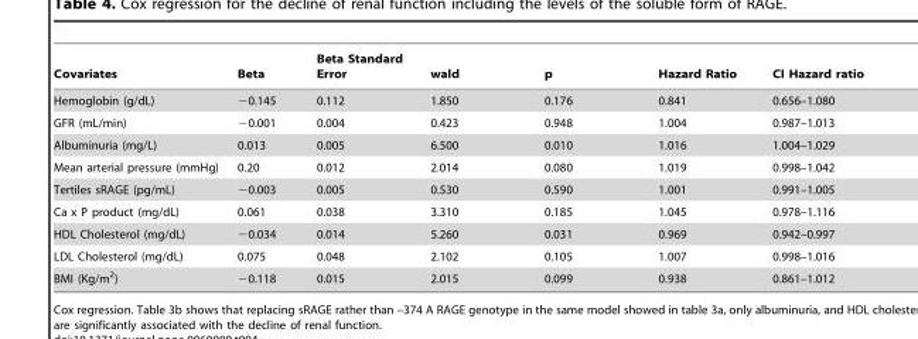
<table><thead><tr><td>Covariates</td><td>Beta</td><td>Beta Standard Error</td><td>wald</td><td>p</td><td>Hazard Ratio</td><td>CI Hazard ratio</td></tr></thead><tbody><tr><td>Hemoglobin (g/dL)</td><td>−0.145</td><td>0.112</td><td>1.850</td><td>0.176</td><td>0.841</td><td>0.656–1.080</td></tr><tr><td>GFR (mL/min)</td><td>−0.001</td><td>0.004</td><td>0.423</td><td>0.948</td><td>1.004</td><td>0.987–1.013</td></tr><tr><td>Albuminuria (mg/L)</td><td>0.013</td><td>0.005</td><td>6.500</td><td>0.010</td><td>1.016</td><td>1.004–1.029</td></tr><tr><td>Mean arterial pressure (mmHg)</td><td>0.20</td><td>0.012</td><td>2.014</td><td>0.080</td><td>1.019</td><td>0.998–1.042</td></tr><tr><td>Tertiles sRAGE (pg/mL)</td><td>−0.003</td><td>0.005</td><td>0.530</td><td>0.590</td><td>1.001</td><td>0.991–1.005</td></tr><tr><td>Ca x P product (mg/dL)</td><td>0.061</td><td>0.038</td><td>3.310</td><td>0.185</td><td>1.045</td><td>0.978–1.116</td></tr><tr><td>HDL Cholesterol (mg/dL)</td><td>−0.034</td><td>0.014</td><td>5.260</td><td>0.031</td><td>0.969</td><td>0.942–0.997</td></tr><tr><td>LDL Cholesterol (mg/dL)</td><td>0.075</td><td>0.048</td><td>2.102</td><td>0.105</td><td>1.007</td><td>0.998–1.016</td></tr><tr><td>BMI (Kg/m<sup>2</sup>)</td><td>−0.118</td><td>0.015</td><td>2.015</td><td>0.099</td><td>0.938</td><td>0.861–1.012</td></tr></tbody></table>